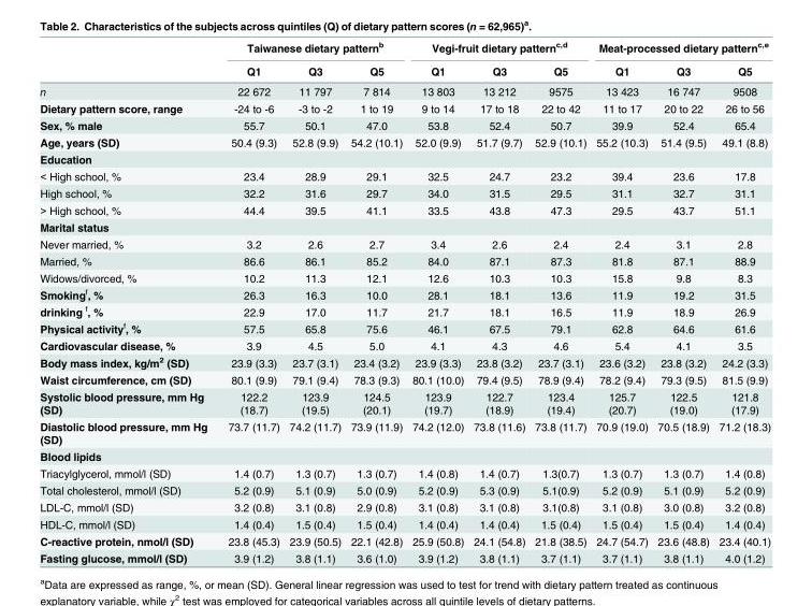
<table><thead><tr><td rowspan="2"></td><td colspan="3">Taiwanese dietary pattern<sup>b</sup></td><td colspan="3">Vegi-fruit dietary pattern<sup>c,d</sup></td><td colspan="3">Meat-processed dietary pattern<sup>c,e</sup></td></tr><tr><td>Q1</td><td>Q3</td><td>Q5</td><td>Q1</td><td>Q3</td><td>Q5</td><td>Q1</td><td>Q3</td><td>Q5</td></tr></thead><tbody><tr><td>n</td><td>22 672</td><td>11 797</td><td>7 814</td><td>13 803</td><td>13 212</td><td>9575</td><td>13 423</td><td>16 747</td><td>9508</td></tr><tr><td>Dietary pattern score, range</td><td>-24 to -6</td><td>-3 to -2</td><td>1 to 19</td><td>9 to 14</td><td>17 to 18</td><td>22 to 42</td><td>11 to 17</td><td>20 to 22</td><td>26 to 56</td></tr><tr><td>Sex, % male</td><td>55.7</td><td>50.1</td><td>47.0</td><td>53.8</td><td>52.4</td><td>50.7</td><td>39.9</td><td>52.4</td><td>65.4</td></tr><tr><td>Age, years (SD)</td><td>50.4 (9.3)</td><td>52.8 (9.9)</td><td>54.2 (10.1)</td><td>52.0 (9.9)</td><td>51.7 (9.7)</td><td>52.9 (10.1)</td><td>55.2 (10.3)</td><td>51.4 (9.5)</td><td>49.1 (8.8)</td></tr><tr><td colspan="10">Education</td></tr><tr><td>&lt; High school, %</td><td>23.4</td><td>28.9</td><td>29.1</td><td>32.5</td><td>24.7</td><td>23.2</td><td>39.4</td><td>23.6</td><td>17.8</td></tr><tr><td>High school, %</td><td>32.2</td><td>31.6</td><td>29.7</td><td>34.0</td><td>31.5</td><td>29.5</td><td>31.1</td><td>32.7</td><td>31.1</td></tr><tr><td>&gt; High school, %</td><td>44.4</td><td>39.5</td><td>41.1</td><td>33.5</td><td>43.8</td><td>47.3</td><td>29.5</td><td>43.7</td><td>51.1</td></tr><tr><td colspan="10">Marital status</td></tr><tr><td>Never married, %</td><td>3.2</td><td>2.6</td><td>2.7</td><td>3.4</td><td>2.6</td><td>2.4</td><td>2.4</td><td>3.1</td><td>2.8</td></tr><tr><td>Married, %</td><td>86.6</td><td>86.1</td><td>85.2</td><td>84.0</td><td>87.1</td><td>87.3</td><td>81.8</td><td>87.1</td><td>88.9</td></tr><tr><td>Widows/divorced, %</td><td>10.2</td><td>11.3</td><td>12.1</td><td>12.6</td><td>10.3</td><td>10.3</td><td>15.8</td><td>9.8</td><td>8.3</td></tr><tr><td>Smoking<sup>f</sup>, %</td><td>26.3</td><td>16.3</td><td>10.0</td><td>28.1</td><td>18.1</td><td>13.6</td><td>11.9</td><td>19.2</td><td>31.5</td></tr><tr><td>drinking <sup>f</sup>, %</td><td>22.9</td><td>17.0</td><td>11.7</td><td>21.7</td><td>18.1</td><td>16.5</td><td>11.9</td><td>18.9</td><td>26.9</td></tr><tr><td>Physical activity<sup>f</sup>, %</td><td>57.5</td><td>65.8</td><td>75.6</td><td>46.1</td><td>67.5</td><td>79.1</td><td>62.8</td><td>64.6</td><td>61.6</td></tr><tr><td>Cardiovascular disease, %</td><td>3.9</td><td>4.5</td><td>5.0</td><td>4.1</td><td>4.3</td><td>4.6</td><td>5.4</td><td>4.1</td><td>3.5</td></tr><tr><td>Body mass index, kg/m<sup>2</sup> (SD)</td><td>23.9 (3.3)</td><td>23.7 (3.1)</td><td>23.4 (3.2)</td><td>23.9 (3.3)</td><td>23.8 (3.2)</td><td>23.7 (3.1)</td><td>23.6 (3.2)</td><td>23.8 (3.2)</td><td>24.2 (3.3)</td></tr><tr><td>Waist circumference, cm (SD)</td><td>80.1 (9.9)</td><td>79.1 (9.4)</td><td>78.3 (9.3)</td><td>80.1 (10.0)</td><td>79.4 (9.5)</td><td>78.9 (9.4)</td><td>78.2 (9.4)</td><td>79.3 (9.5)</td><td>81.5 (9.9)</td></tr><tr><td>Systolic blood pressure, mm Hg (SD)</td><td>122.2 (18.7)</td><td>123.9 (19.5)</td><td>124.5 (20.1)</td><td>123.9 (19.7)</td><td>122.7 (18.9)</td><td>123.4 (19.4)</td><td>125.7 (20.7)</td><td>122.5 (19.0)</td><td>121.8 (17.9)</td></tr><tr><td>Diastolic blood pressure, mm Hg (SD)</td><td>73.7 (11.7)</td><td>74.2 (11.7)</td><td>73.9 (11.9)</td><td>74.2 (12.0)</td><td>73.8 (11.6)</td><td>73.8 (11.7)</td><td>70.9 (19.0)</td><td>70.5 (18.9)</td><td>71.2 (18.3)</td></tr><tr><td colspan="10">Blood lipids</td></tr><tr><td>Triacylglycerol, mmol/l (SD)</td><td>1.4 (0.7)</td><td>1.3 (0.7)</td><td>1.3 (0.7)</td><td>1.4 (0.8)</td><td>1.4 (0.7)</td><td>1.3(0.7)</td><td>1.3 (0.7)</td><td>1.3 (0.7)</td><td>1.4 (0.8)</td></tr><tr><td>Total cholesterol, mmol/l (SD)</td><td>5.2 (0.9)</td><td>5.1 (0.9)</td><td>5.0 (0.9)</td><td>5.2 (0.9)</td><td>5.3 (0.9)</td><td>5.1(0.9)</td><td>5.2 (0.9)</td><td>5.1 (0.9)</td><td>5.2 (0.9)</td></tr><tr><td>LDL-C, mmol/l (SD)</td><td>3.2 (0.8)</td><td>3.1 (0.8)</td><td>2.9 (0.8)</td><td>3.1 (0.8)</td><td>3.1 (0.8)</td><td>3.1(0.8)</td><td>3.1 (0.8)</td><td>3.0 (0.8)</td><td>3.2 (0.8)</td></tr><tr><td>HDL-C, mmol/l (SD)</td><td>1.4 (0.4)</td><td>1.5 (0.4)</td><td>1.5 (0.4)</td><td>1.4 (0.4)</td><td>1.4 (0.4)</td><td>1.5 (0.4)</td><td>1.5 (0.4)</td><td>1.5 (0.4)</td><td>1.4 (0.4)</td></tr><tr><td>C-reactive protein, nmol/l (SD)</td><td>23.8 (45.3)</td><td>23.9 (50.5)</td><td>22.1 (42.8)</td><td>25.9 (50.8)</td><td>24.1 (54.8)</td><td>21.8 (38.5)</td><td>24.7 (54.7)</td><td>23.6 (48.8)</td><td>23.4 (40.1)</td></tr><tr><td>Fasting glucose, mmol/l (SD)</td><td>3.9 (1.2)</td><td>3.8 (1.1)</td><td>3.6 (1.0)</td><td>3.9 (1.2)</td><td>3.8 (1.1)</td><td>3.7 (1.1)</td><td>3.7 (1.1)</td><td>3.8 (1.1)</td><td>4.0 (1.2)</td></tr></tbody></table>